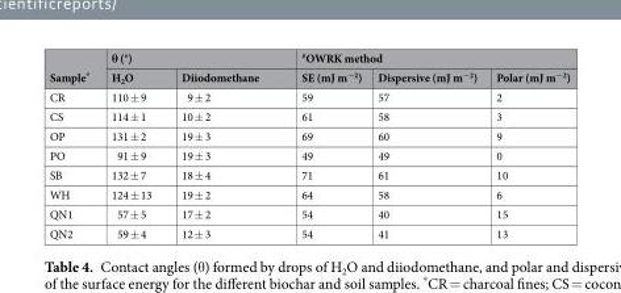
<table><thead><tr><td rowspan="2">Sample*</td><td colspan="2">θ (°)</td><td colspan="3"><sup>#</sup>OWRK method</td></tr><tr><td>H<sub>2</sub>O</td><td>Diiodomethane</td><td>SE (mJ m<sup>−2</sup>)</td><td>Dispersive (mJ m<sup>−2</sup>)</td><td>Polar (mJ m<sup>−2</sup>)</td></tr></thead><tbody><tr><td>CR</td><td>110 ± 9</td><td>9 ± 2</td><td>59</td><td>57</td><td>2</td></tr><tr><td>CS</td><td>114 ± 1</td><td>10 ± 2</td><td>61</td><td>58</td><td>3</td></tr><tr><td>OP</td><td>131 ± 2</td><td>19 ± 3</td><td>69</td><td>60</td><td>9</td></tr><tr><td>PO</td><td>91 ± 9</td><td>19 ± 3</td><td>49</td><td>49</td><td>0</td></tr><tr><td>SB</td><td>132 ± 7</td><td>18 ± 4</td><td>71</td><td>61</td><td>10</td></tr><tr><td>WH</td><td>124 ± 13</td><td>19 ± 2</td><td>64</td><td>58</td><td>6</td></tr><tr><td>QN1</td><td>57 ± 5</td><td>17 ± 2</td><td>54</td><td>40</td><td>15</td></tr><tr><td>QN2</td><td>59 ± 4</td><td>12 ± 3</td><td>54</td><td>41</td><td>13</td></tr></tbody></table>